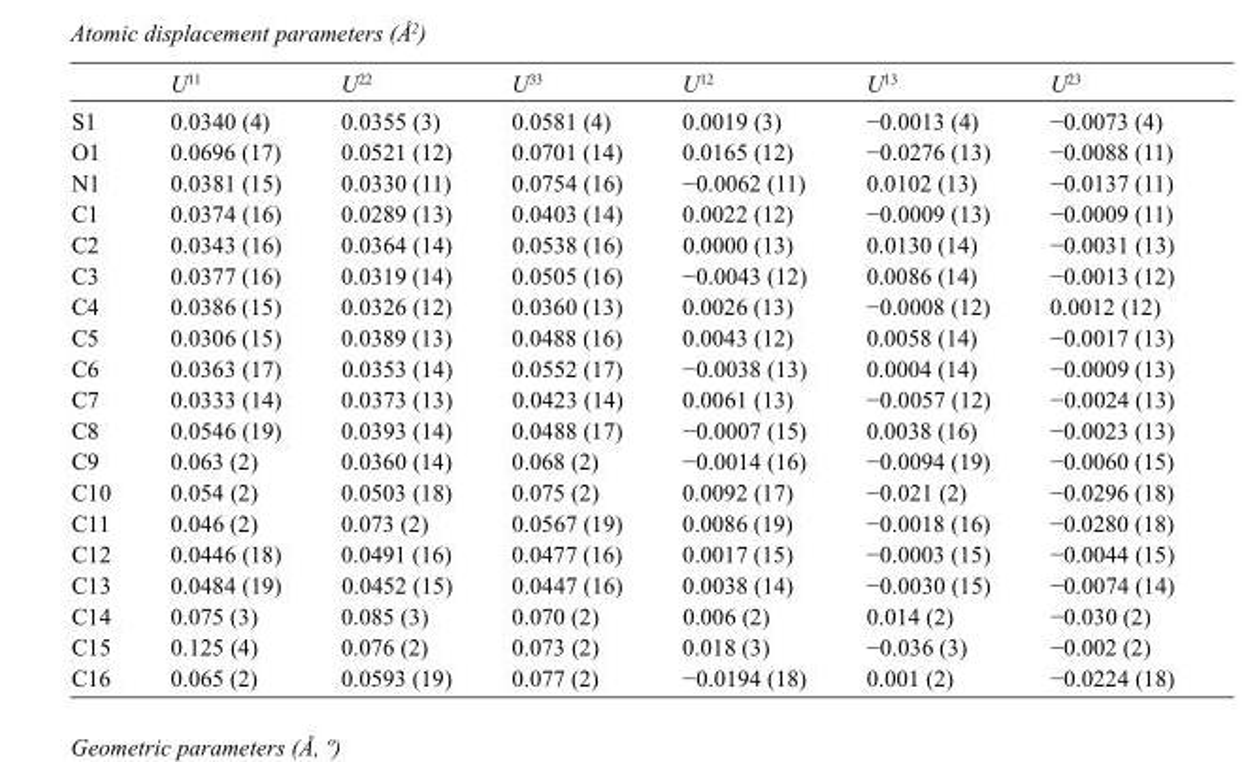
<table><thead><tr><td></td><td>U<sup>11</sup></td><td>U<sup>22</sup></td><td>U<sup>33</sup></td><td>U<sup>12</sup></td><td>U<sup>13</sup></td><td>U<sup>23</sup></td></tr></thead><tbody><tr><td>S1</td><td>0.0340 (4)</td><td>0.0355 (3)</td><td>0.0581 (4)</td><td>0.0019 (3)</td><td>−0.0013 (4)</td><td>−0.0073 (4)</td></tr><tr><td>O1</td><td>0.0696 (17)</td><td>0.0521 (12)</td><td>0.0701 (14)</td><td>0.0165 (12)</td><td>−0.0276 (13)</td><td>−0.0088 (11)</td></tr><tr><td>N1</td><td>0.0381 (15)</td><td>0.0330 (11)</td><td>0.0754 (16)</td><td>−0.0062 (11)</td><td>0.0102 (13)</td><td>−0.0137 (11)</td></tr><tr><td>C1</td><td>0.0374 (16)</td><td>0.0289 (13)</td><td>0.0403 (14)</td><td>0.0022 (12)</td><td>−0.0009 (13)</td><td>−0.0009 (11)</td></tr><tr><td>C2</td><td>0.0343 (16)</td><td>0.0364 (14)</td><td>0.0538 (16)</td><td>0.0000 (13)</td><td>0.0130 (14)</td><td>−0.0031 (13)</td></tr><tr><td>C3</td><td>0.0377 (16)</td><td>0.0319 (14)</td><td>0.0505 (16)</td><td>−0.0043 (12)</td><td>0.0086 (14)</td><td>−0.0013 (12)</td></tr><tr><td>C4</td><td>0.0386 (15)</td><td>0.0326 (12)</td><td>0.0360 (13)</td><td>0.0026 (13)</td><td>−0.0008 (12)</td><td>0.0012 (12)</td></tr><tr><td>C5</td><td>0.0306 (15)</td><td>0.0389 (13)</td><td>0.0488 (16)</td><td>0.0043 (12)</td><td>0.0058 (14)</td><td>−0.0017 (13)</td></tr><tr><td>C6</td><td>0.0363 (17)</td><td>0.0353 (14)</td><td>0.0552 (17)</td><td>−0.0038 (13)</td><td>0.0004 (14)</td><td>−0.0009 (13)</td></tr><tr><td>C7</td><td>0.0333 (14)</td><td>0.0373 (13)</td><td>0.0423 (14)</td><td>0.0061 (13)</td><td>−0.0057 (12)</td><td>−0.0024 (13)</td></tr><tr><td>C8</td><td>0.0546 (19)</td><td>0.0393 (14)</td><td>0.0488 (17)</td><td>−0.0007 (15)</td><td>0.0038 (16)</td><td>−0.0023 (13)</td></tr><tr><td>C9</td><td>0.063 (2)</td><td>0.0360 (14)</td><td>0.068 (2)</td><td>−0.0014 (16)</td><td>−0.0094 (19)</td><td>−0.0060 (15)</td></tr><tr><td>C10</td><td>0.054 (2)</td><td>0.0503 (18)</td><td>0.075 (2)</td><td>0.0092 (17)</td><td>−0.021 (2)</td><td>−0.0296 (18)</td></tr><tr><td>C11</td><td>0.046 (2)</td><td>0.073 (2)</td><td>0.0567 (19)</td><td>0.0086 (19)</td><td>−0.0018 (16)</td><td>−0.0280 (18)</td></tr><tr><td>C12</td><td>0.0446 (18)</td><td>0.0491 (16)</td><td>0.0477 (16)</td><td>0.0017 (15)</td><td>−0.0003 (15)</td><td>−0.0044 (15)</td></tr><tr><td>C13</td><td>0.0484 (19)</td><td>0.0452 (15)</td><td>0.0447 (16)</td><td>0.0038 (14)</td><td>−0.0030 (15)</td><td>−0.0074 (14)</td></tr><tr><td>C14</td><td>0.075 (3)</td><td>0.085 (3)</td><td>0.070 (2)</td><td>0.006 (2)</td><td>0.014 (2)</td><td>−0.030 (2)</td></tr><tr><td>C15</td><td>0.125 (4)</td><td>0.076 (2)</td><td>0.073 (2)</td><td>0.018 (3)</td><td>−0.036 (3)</td><td>−0.002 (2)</td></tr><tr><td>C16</td><td>0.065 (2)</td><td>0.0593 (19)</td><td>0.077 (2)</td><td>−0.0194 (18)</td><td>0.001 (2)</td><td>−0.0224 (18)</td></tr></tbody></table>